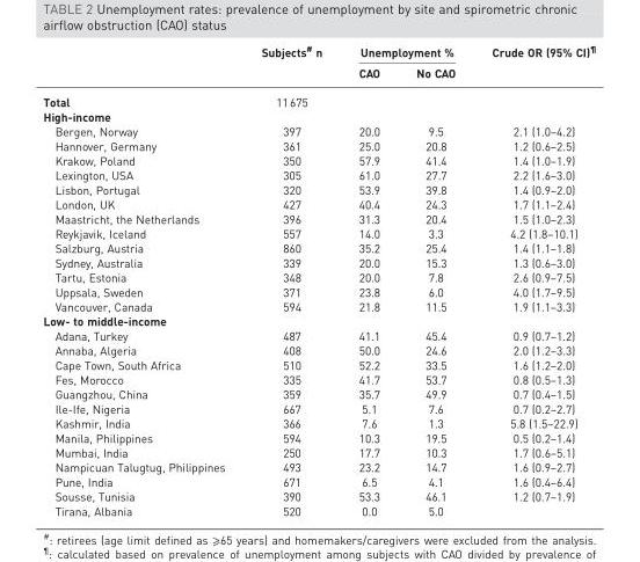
<table><thead><tr><td rowspan="2"></td><td rowspan="2">Subjects<sup>#</sup> n</td><td colspan="2">Unemployment %</td><td rowspan="2">Crude OR (95% CI)<sup>¶</sup></td></tr><tr><td>CAO</td><td>No CAO</td></tr></thead><tbody><tr><td>Total</td><td>11675</td><td></td><td></td><td></td></tr><tr><td colspan="5">High-income</td></tr><tr><td>Bergen, Norway</td><td>397</td><td>20.0</td><td>9.5</td><td>2.1 (1.0–4.2)</td></tr><tr><td>Hannover, Germany</td><td>361</td><td>25.0</td><td>20.8</td><td>1.2 (0.6–2.5)</td></tr><tr><td>Krakow, Poland</td><td>350</td><td>57.9</td><td>41.4</td><td>1.4 (1.0–1.9)</td></tr><tr><td>Lexington, USA</td><td>305</td><td>61.0</td><td>27.7</td><td>2.2 (1.6–3.0)</td></tr><tr><td>Lisbon, Portugal</td><td>320</td><td>53.9</td><td>39.8</td><td>1.4 (0.9–2.0)</td></tr><tr><td>London, UK</td><td>427</td><td>40.4</td><td>24.3</td><td>1.7 (1.1–2.4)</td></tr><tr><td>Maastricht, the Netherlands</td><td>396</td><td>31.3</td><td>20.4</td><td>1.5 (1.0–2.3)</td></tr><tr><td>Reykjavik, Iceland</td><td>557</td><td>14.0</td><td>3.3</td><td>4.2 (1.8–10.1)</td></tr><tr><td>Salzburg, Austria</td><td>860</td><td>35.2</td><td>25.4</td><td>1.4 (1.1–1.8)</td></tr><tr><td>Sydney, Australia</td><td>339</td><td>20.0</td><td>15.3</td><td>1.3 (0.6–3.0)</td></tr><tr><td>Tartu, Estonia</td><td>348</td><td>20.0</td><td>7.8</td><td>2.6 (0.9–7.5)</td></tr><tr><td>Uppsala, Sweden</td><td>371</td><td>23.8</td><td>6.0</td><td>4.0 (1.7–9.5)</td></tr><tr><td>Vancouver, Canada</td><td>594</td><td>21.8</td><td>11.5</td><td>1.9 (1.1–3.3)</td></tr><tr><td colspan="5">Low- to middle-income</td></tr><tr><td>Adana, Turkey</td><td>487</td><td>41.1</td><td>45.4</td><td>0.9 (0.7–1.2)</td></tr><tr><td>Annaba, Algeria</td><td>408</td><td>50.0</td><td>24.6</td><td>2.0 (1.2–3.3)</td></tr><tr><td>Cape Town, South Africa</td><td>510</td><td>52.2</td><td>33.5</td><td>1.6 (1.2–2.0)</td></tr><tr><td>Fes, Morocco</td><td>335</td><td>41.7</td><td>53.7</td><td>0.8 (0.5–1.3)</td></tr><tr><td>Guangzhou, China</td><td>359</td><td>35.7</td><td>49.9</td><td>0.7 (0.4–1.5)</td></tr><tr><td>Ile-Ife, Nigeria</td><td>667</td><td>5.1</td><td>7.6</td><td>0.7 (0.2–2.7)</td></tr><tr><td>Kashmir, India</td><td>366</td><td>7.6</td><td>1.3</td><td>5.8 (1.5–22.9)</td></tr><tr><td>Manila, Philippines</td><td>594</td><td>10.3</td><td>19.5</td><td>0.5 (0.2–1.4)</td></tr><tr><td>Mumbai, India</td><td>250</td><td>17.7</td><td>10.3</td><td>1.7 (0.6–5.1)</td></tr><tr><td>Nampicuan Talugtug, Philippines</td><td>493</td><td>23.2</td><td>14.7</td><td>1.6 (0.9–2.7)</td></tr><tr><td>Pune, India</td><td>671</td><td>6.5</td><td>4.1</td><td>1.6 (0.4–6.4)</td></tr><tr><td>Sousse, Tunisia</td><td>390</td><td>53.3</td><td>46.1</td><td>1.2 (0.7–1.9)</td></tr><tr><td>Tirana, Albania</td><td>520</td><td>0.0</td><td>5.0</td><td></td></tr></tbody></table>